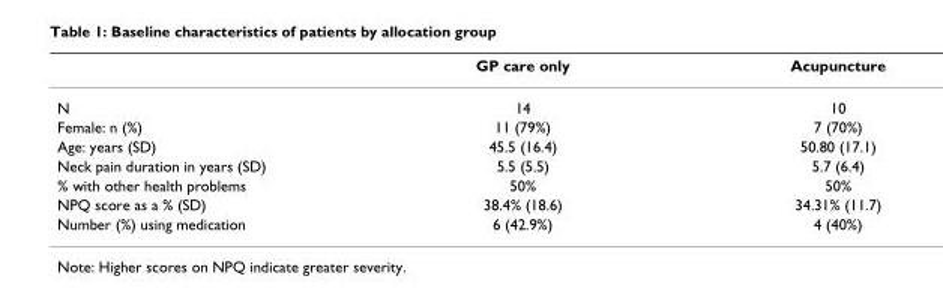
<table><thead><tr><td></td><td>GP care only</td><td>Acupuncture</td></tr></thead><tbody><tr><td>N</td><td>14</td><td>10</td></tr><tr><td>Female: n (%)</td><td>11 (79%)</td><td>7 (70%)</td></tr><tr><td>Age: years (SD)</td><td>45.5 (16.4)</td><td>50.80 (17.1)</td></tr><tr><td>Neck pain duration in years (SD)</td><td>5.5 (5.5)</td><td>5.7 (6.4)</td></tr><tr><td>% with other health problems</td><td>50%</td><td>50%</td></tr><tr><td>NPQ score as a % (SD)</td><td>38.4% (18.6)</td><td>34.31% (11.7)</td></tr><tr><td>Number (%) using medication</td><td>6 (42.9%)</td><td>4 (40%)</td></tr></tbody></table>